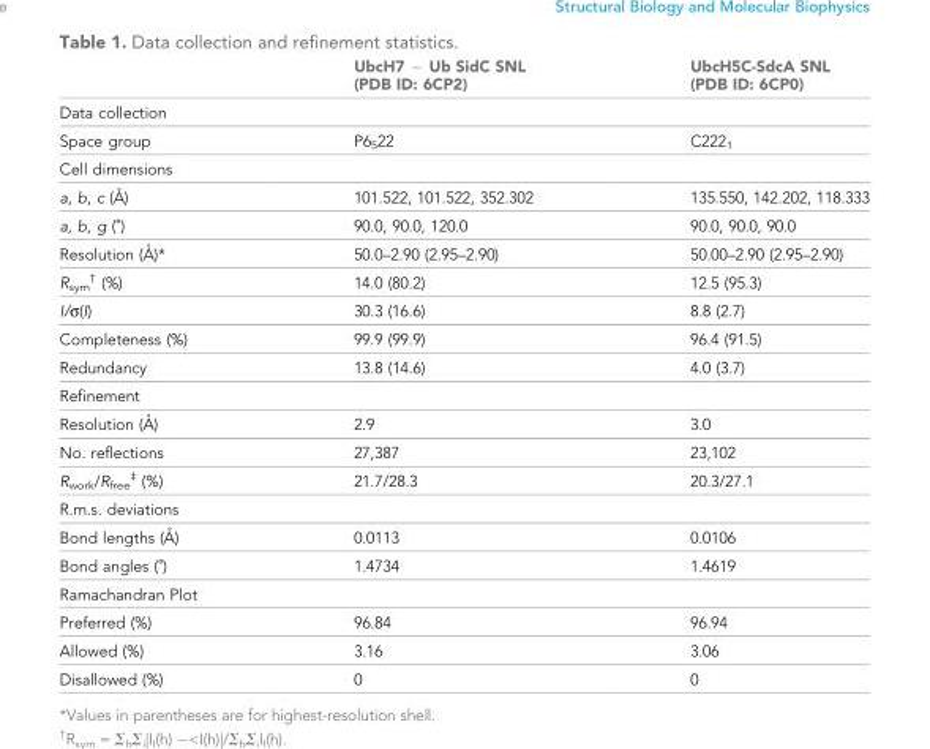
<table><thead><tr><td></td><td>UbcH7 ~ Ub SidC SNL (PDB ID: 6CP2)</td><td>UbcH5C-SdcA SNL (PDB ID: 6CP0)</td></tr></thead><tbody><tr><td colspan="3">Data collection</td></tr><tr><td>Space group</td><td>P6<sub>5</sub>22</td><td>C222<sub>1</sub></td></tr><tr><td colspan="3">Cell dimensions</td></tr><tr><td>a, b, c (A˚ )</td><td>101.522, 101.522, 352.302</td><td>135.550, 142.202, 118.333</td></tr><tr><td>a, b, g (˚)</td><td>90.0, 90.0, 120.0</td><td>90.0, 90.0, 90.0</td></tr><tr><td>Resolution (A˚ )*</td><td>50.0–2.90 (2.95–2.90)</td><td>50.00–2.90 (2.95–2.90)</td></tr><tr><td>R<sub>sym</sub> <sup>†</sup> (%)</td><td>14.0 (80.2)</td><td>12.5 (95.3)</td></tr><tr><td>I/σ(I)</td><td>30.3 (16.6)</td><td>8.8 (2.7)</td></tr><tr><td>Completeness (%)</td><td>99.9 (99.9)</td><td>96.4 (91.5)</td></tr><tr><td>Redundancy</td><td>13.8 (14.6)</td><td>4.0 (3.7)</td></tr><tr><td colspan="3">Refinement</td></tr><tr><td>Resolution (A˚ )</td><td>2.9</td><td>3.0</td></tr><tr><td>No. reflections</td><td>27,387</td><td>23,102</td></tr><tr><td>R<sub>work</sub>/R<sub>free</sub> <sup>‡</sup> (%)</td><td>21.7/28.3</td><td>20.3/27.1</td></tr><tr><td colspan="3">R.m.s. deviations</td></tr><tr><td>Bond lengths (A˚ )</td><td>0.0113</td><td>0.0106</td></tr><tr><td>Bond angles (˚)</td><td>1.4734</td><td>1.4619</td></tr><tr><td colspan="3">Ramachandran Plot</td></tr><tr><td>Preferred (%)</td><td>96.84</td><td>96.94</td></tr><tr><td>Allowed (%)</td><td>3.16</td><td>3.06</td></tr><tr><td>Disallowed (%)</td><td>0</td><td>0</td></tr></tbody></table>